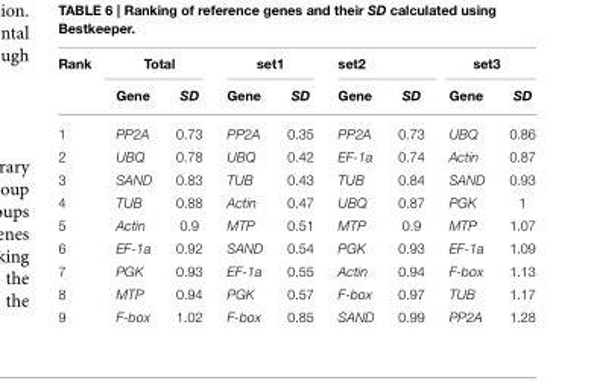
<table><thead><tr><td rowspan="2">Rank</td><td colspan="2">Total</td><td colspan="2">set1</td><td colspan="2">set2</td><td colspan="2">set3</td></tr><tr><td>Gene</td><td>SD</td><td>Gene</td><td>SD</td><td>Gene</td><td>SD</td><td>Gene</td><td>SD</td></tr></thead><tbody><tr><td>1</td><td>PP2A</td><td>0.73</td><td>PP2A</td><td>0.35</td><td>PP2A</td><td>0.73</td><td>UBQ</td><td>0.86</td></tr><tr><td>2</td><td>UBQ</td><td>0.78</td><td>UBQ</td><td>0.42</td><td>EF-1a</td><td>0.74</td><td>Actin</td><td>0.87</td></tr><tr><td>3</td><td>SAND</td><td>0.83</td><td>TUB</td><td>0.43</td><td>TUB</td><td>0.84</td><td>SAND</td><td>0.93</td></tr><tr><td>4</td><td>TUB</td><td>0.88</td><td>Actin</td><td>0.47</td><td>UBQ</td><td>0.87</td><td>PGK</td><td>1</td></tr><tr><td>5</td><td>Actin</td><td>0.9</td><td>MTP</td><td>0.51</td><td>MTP</td><td>0.9</td><td>MTP</td><td>1.07</td></tr><tr><td>6</td><td>EF-1a</td><td>0.92</td><td>SAND</td><td>0.54</td><td>PGK</td><td>0.93</td><td>EF-1a</td><td>1.09</td></tr><tr><td>7</td><td>PGK</td><td>0.93</td><td>EF-1a</td><td>0.55</td><td>Actin</td><td>0.94</td><td>F-box</td><td>1.13</td></tr><tr><td>8</td><td>MTP</td><td>0.94</td><td>PGK</td><td>0.57</td><td>F-box</td><td>0.97</td><td>TUB</td><td>1.17</td></tr><tr><td>9</td><td>F-box</td><td>1.02</td><td>F-box</td><td>0.85</td><td>SAND</td><td>0.99</td><td>PP2A</td><td>1.28</td></tr></tbody></table>